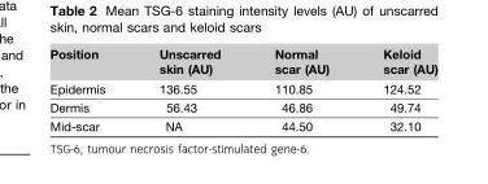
<table><thead><tr><td>Position</td><td>Unscarred skin (AU)</td><td>Normal scar (AU)</td><td>Keloid scar (AU)</td></tr></thead><tbody><tr><td>Epidermis</td><td>136.55</td><td>110.85</td><td>124.52</td></tr><tr><td>Dermis</td><td>56.43</td><td>46.86</td><td>49.74</td></tr><tr><td>Mid-scar</td><td>NA</td><td>44.50</td><td>32.10</td></tr></tbody></table>